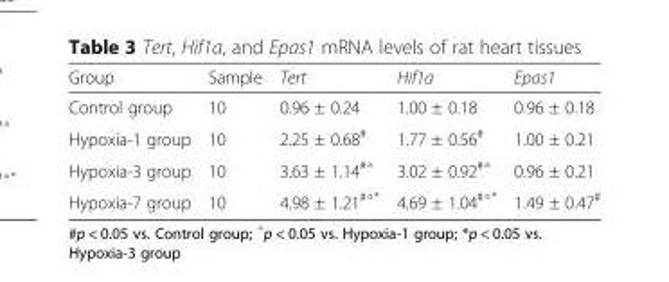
<table><thead><tr><td>Group</td><td>Sample</td><td>Tert</td><td>Hif1a</td><td>Epas1</td></tr></thead><tbody><tr><td>Control group</td><td>10</td><td>0.96 ± 0.24</td><td>1.00 ± 0.18</td><td>0.96 ± 0.18</td></tr><tr><td>Hypoxia-1 group</td><td>10</td><td>2.25 ± 0.68<sup>#</sup></td><td>1.77 ± 0.56<sup>#</sup></td><td>1.00 ± 0.21</td></tr><tr><td>Hypoxia-3 group</td><td>10</td><td>3.63 ± 1.14<sup>#△</sup></td><td>3.02 ± 0.92<sup>#△</sup></td><td>0.96 ± 0.21</td></tr><tr><td>Hypoxia-7 group</td><td>10</td><td>4.98 ± 1.21<sup>#△*</sup></td><td>4.69 ± 1.04<sup>#△*</sup></td><td>1.49 ± 0.47<sup>#</sup></td></tr></tbody></table>